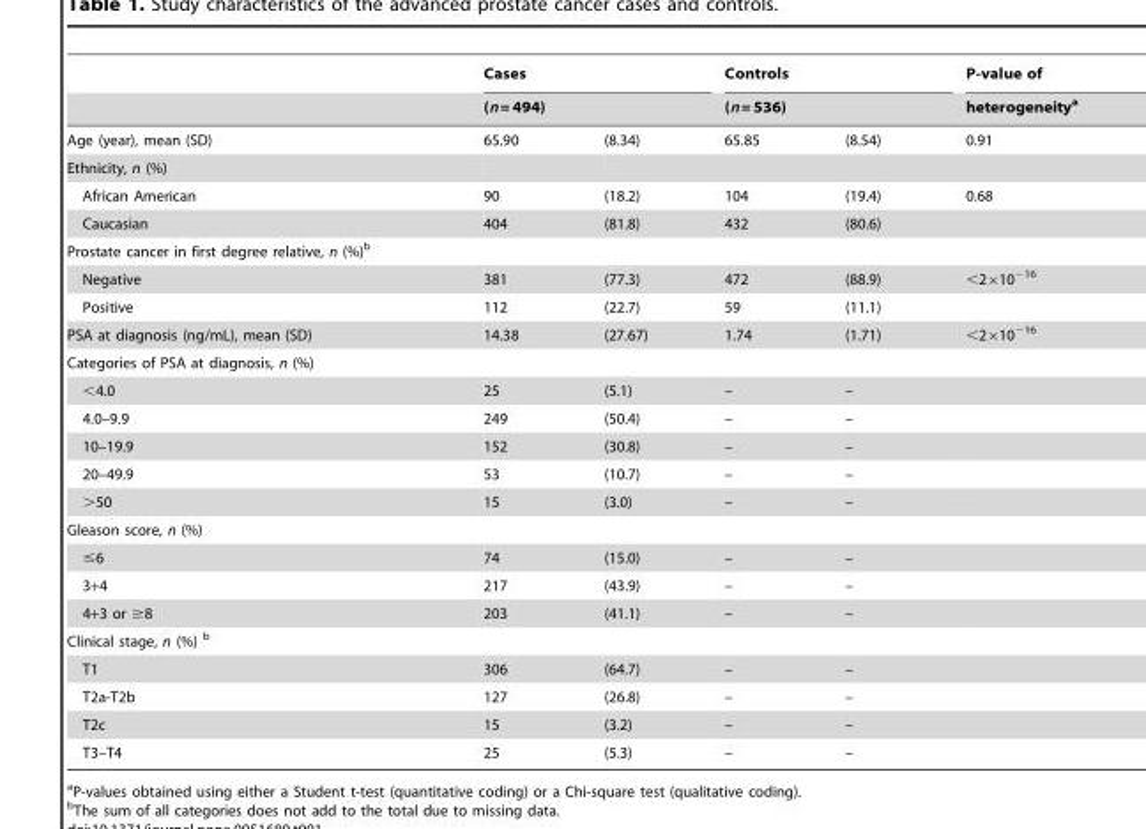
<table><thead><tr><td rowspan="3">Age (year), mean (SD)</td><td rowspan="2" colspan="2">Cases (n = 494)</td><td rowspan="2" colspan="2">Controls (n = 536)</td><td rowspan="3">P-value of heterogeneity<sup>a</sup> 0.91</td></tr><tr></tr><tr><td>65.90</td><td>(8.34)</td><td>65.85</td><td>(8.54)</td></tr></thead><tbody><tr><td colspan="6">Ethnicity, n (%)</td></tr><tr><td>African American</td><td>90</td><td>(18.2)</td><td>104</td><td>(19.4)</td><td>0.68</td></tr><tr><td>Caucasian</td><td>404</td><td>(81.8)</td><td>432</td><td>(80.6)</td><td></td></tr><tr><td colspan="6">Prostate cancer in first degree relative, n (%)<sup>b</sup></td></tr><tr><td>Negative</td><td>381</td><td>(77.3)</td><td>472</td><td>(88.9)</td><td>&lt;2×10<sup>−16</sup></td></tr><tr><td>Positive</td><td>112</td><td>(22.7)</td><td>59</td><td>(11.1)</td><td></td></tr><tr><td>PSA at diagnosis (ng/mL), mean (SD)</td><td>14.38</td><td>(27.67)</td><td>1.74</td><td>(1.71)</td><td>&lt;2×10<sup>−16</sup></td></tr><tr><td colspan="6">Categories of PSA at diagnosis, n (%)</td></tr><tr><td>&lt;4.0</td><td>25</td><td>(5.1)</td><td>–</td><td>–</td><td></td></tr><tr><td>4.0–9.9</td><td>249</td><td>(50.4)</td><td>–</td><td>–</td><td></td></tr><tr><td>10–19.9</td><td>152</td><td>(30.8)</td><td>–</td><td>–</td><td></td></tr><tr><td>20–49.9</td><td>53</td><td>(10.7)</td><td>–</td><td>–</td><td></td></tr><tr><td>&gt;50</td><td>15</td><td>(3.0)</td><td>–</td><td>–</td><td></td></tr><tr><td colspan="6">Gleason score, n (%)</td></tr><tr><td>≤6</td><td>74</td><td>(15.0)</td><td>–</td><td>–</td><td></td></tr><tr><td>3+4</td><td>217</td><td>(43.9)</td><td>–</td><td>–</td><td></td></tr><tr><td>4+3 or ≥8</td><td>203</td><td>(41.1)</td><td>–</td><td>–</td><td></td></tr><tr><td colspan="6">Clinical stage, n (%) b</td></tr><tr><td>T1</td><td>306</td><td>(64.7)</td><td>–</td><td>–</td><td></td></tr><tr><td>T2a-T2b</td><td>127</td><td>(26.8)</td><td>–</td><td>–</td><td></td></tr><tr><td>T2c</td><td>15</td><td>(3.2)</td><td>–</td><td>–</td><td></td></tr><tr><td>T3–T4</td><td>25</td><td>(5.3)</td><td>–</td><td>–</td><td></td></tr></tbody></table>